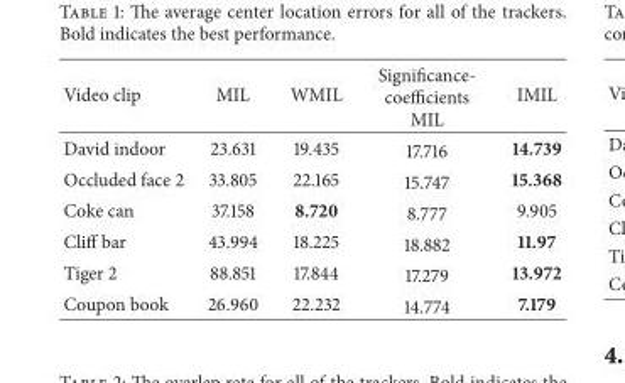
<table><thead><tr><td>Video clip</td><td>MIL</td><td>WMIL</td><td>Significance- coefficients MIL</td><td>IMIL</td></tr></thead><tbody><tr><td>David indoor</td><td>23.631</td><td>19.435</td><td>17.716</td><td>14.739</td></tr><tr><td>Occluded face 2</td><td>33.805</td><td>22.165</td><td>15.747</td><td>15.368</td></tr><tr><td>Coke can</td><td>37.158</td><td>8.720</td><td>8.777</td><td>9.905</td></tr><tr><td>Cliff bar</td><td>43.994</td><td>18.225</td><td>18.882</td><td>11.97</td></tr><tr><td>Tiger 2</td><td>88.851</td><td>17.844</td><td>17.279</td><td>13.972</td></tr><tr><td>Coupon book</td><td>26.960</td><td>22.232</td><td>14.774</td><td>7.179</td></tr></tbody></table>